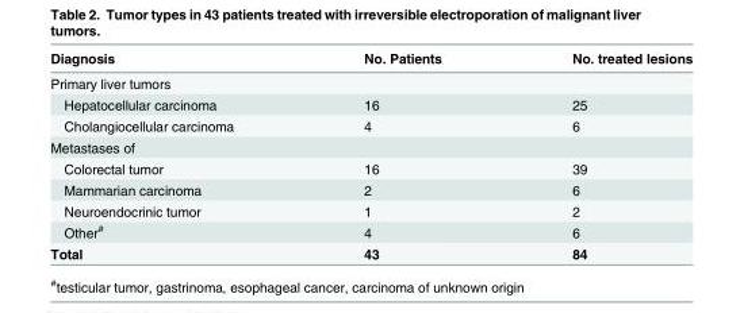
<table><thead><tr><td>Diagnosis</td><td>No. Patients</td><td>No. treated lesions</td></tr></thead><tbody><tr><td colspan="3">Primary liver tumors</td></tr><tr><td>Hepatocellular carcinoma</td><td>16</td><td>25</td></tr><tr><td>Cholangiocellular carcinoma</td><td>4</td><td>6</td></tr><tr><td colspan="3">Metastases of</td></tr><tr><td>Colorectal tumor</td><td>16</td><td>39</td></tr><tr><td>Mammarian carcinoma</td><td>2</td><td>6</td></tr><tr><td>Neuroendocrinic tumor</td><td>1</td><td>2</td></tr><tr><td>Other<sup>#</sup></td><td>4</td><td>6</td></tr><tr><td>Total</td><td>43</td><td>84</td></tr></tbody></table>